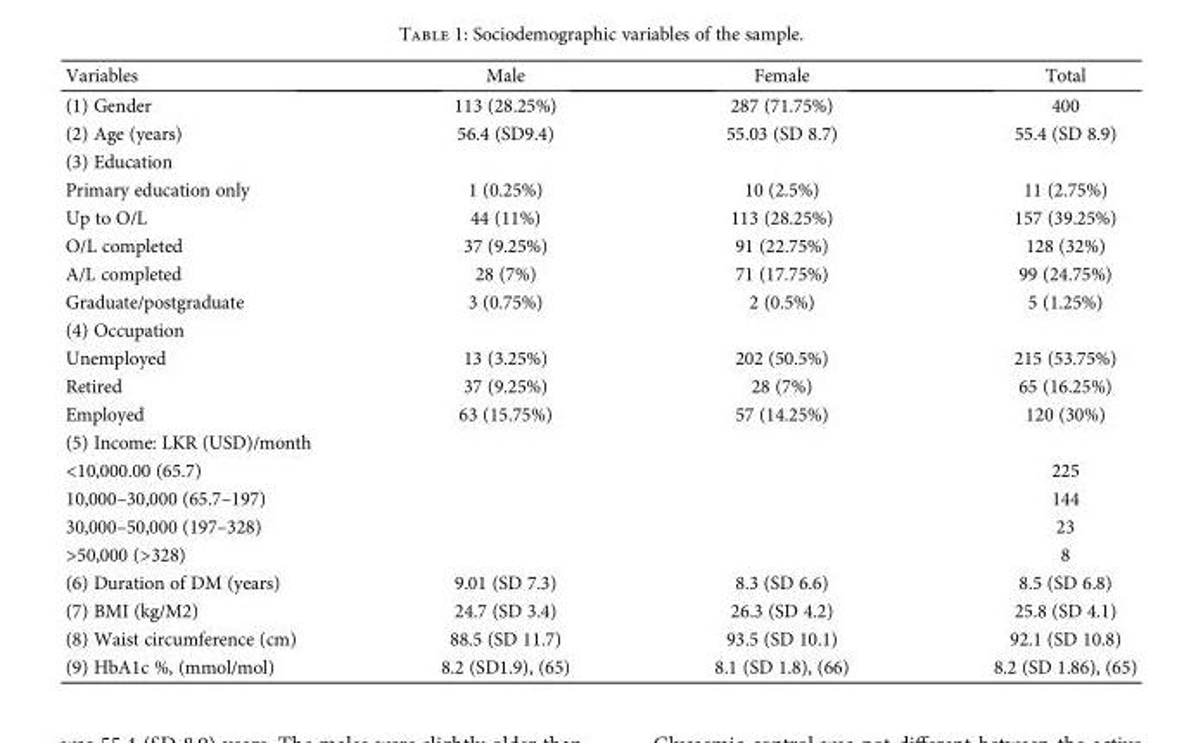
<table><thead><tr><td>Variables</td><td>Male</td><td>Female</td><td>Total</td></tr></thead><tbody><tr><td>(1) Gender</td><td>113 (28.25%)</td><td>287 (71.75%)</td><td>400</td></tr><tr><td>(2) Age (years)</td><td>56.4 (SD9.4)</td><td>55.03 (SD 8.7)</td><td>55.4 (SD 8.9)</td></tr><tr><td colspan="4">(3) Education</td></tr><tr><td>Primary education only</td><td>1 (0.25%)</td><td>10 (2.5%)</td><td>11 (2.75%)</td></tr><tr><td>Up to O/L</td><td>44 (11%)</td><td>113 (28.25%)</td><td>157 (39.25%)</td></tr><tr><td>O/L completed</td><td>37 (9.25%)</td><td>91 (22.75%)</td><td>128 (32%)</td></tr><tr><td>A/L completed</td><td>28 (7%)</td><td>71 (17.75%)</td><td>99 (24.75%)</td></tr><tr><td>Graduate/postgraduate</td><td>3 (0.75%)</td><td>2 (0.5%)</td><td>5 (1.25%)</td></tr><tr><td colspan="4">(4) Occupation</td></tr><tr><td>Unemployed</td><td>13 (3.25%)</td><td>202 (50.5%)</td><td>215 (53.75%)</td></tr><tr><td>Retired</td><td>37 (9.25%)</td><td>28 (7%)</td><td>65 (16.25%)</td></tr><tr><td>Employed</td><td>63 (15.75%)</td><td>57 (14.25%)</td><td>120 (30%)</td></tr><tr><td colspan="4">(5) Income: LKR (USD)/month</td></tr><tr><td>&lt;10,000.00 (65.7)</td><td></td><td></td><td>225</td></tr><tr><td>10,000–30,000 (65.7–197)</td><td></td><td></td><td>144</td></tr><tr><td>30,000–50,000 (197–328)</td><td></td><td></td><td>23</td></tr><tr><td>&gt;50,000 (&gt;328)</td><td></td><td></td><td>8</td></tr><tr><td>(6) Duration of DM (years)</td><td>9.01 (SD 7.3)</td><td>8.3 (SD 6.6)</td><td>8.5 (SD 6.8)</td></tr><tr><td>(7) BMI (kg/M2)</td><td>24.7 (SD 3.4)</td><td>26.3 (SD 4.2)</td><td>25.8 (SD 4.1)</td></tr><tr><td>(8) Waist circumference (cm)</td><td>88.5 (SD 11.7)</td><td>93.5 (SD 10.1)</td><td>92.1 (SD 10.8)</td></tr><tr><td>(9) HbA1c %, (mmol/mol)</td><td>8.2 (SD1.9), (65)</td><td>8.1 (SD 1.8), (66)</td><td>8.2 (SD 1.86), (65)</td></tr></tbody></table>